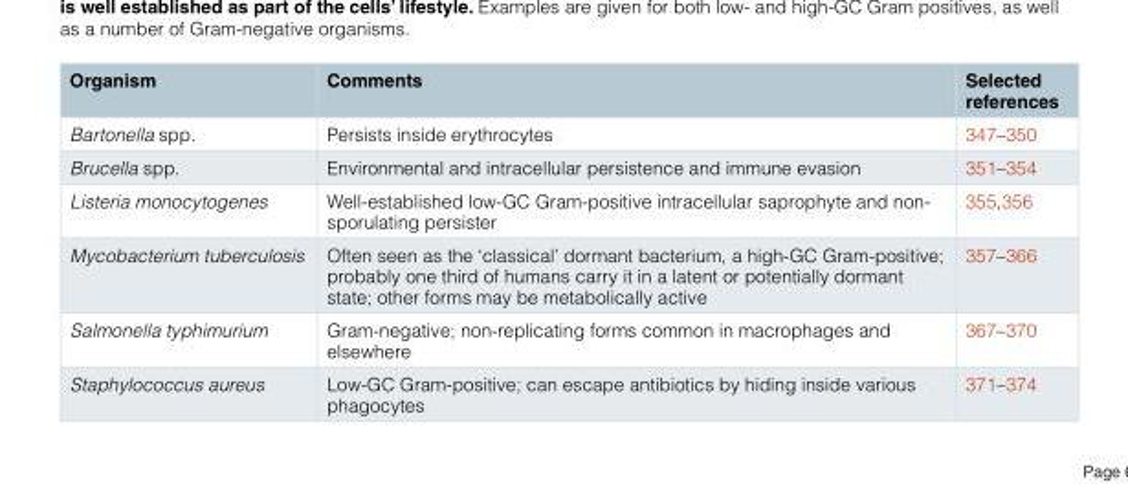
<table><thead><tr><td>Organism</td><td>Comments</td><td>Selected references</td></tr></thead><tbody><tr><td>Bartonella spp.</td><td>Persists inside erythrocytes</td><td>347–350</td></tr><tr><td>Brucella spp.</td><td>Environmental and intracellular persistence and immune evasion</td><td>351–354</td></tr><tr><td>Listeria monocytogenes</td><td>Well-established low-GC Gram-positive intracellular saprophyte and non- sporulating persister</td><td>355,356</td></tr><tr><td>Mycobacterium tuberculosis</td><td>Often seen as the ‘classical’ dormant bacterium, a high-GC Gram-positive; probably one third of humans carry it in a latent or potentially dormant state; other forms may be metabolically active</td><td>357–366</td></tr><tr><td>Salmonella typhimurium</td><td>Gram-negative; non-replicating forms common in macrophages and elsewhere</td><td>367–370</td></tr><tr><td>Staphylococcus aureus</td><td>Low-GC Gram-positive; can escape antibiotics by hiding inside various phagocytes</td><td>371–374</td></tr></tbody></table>